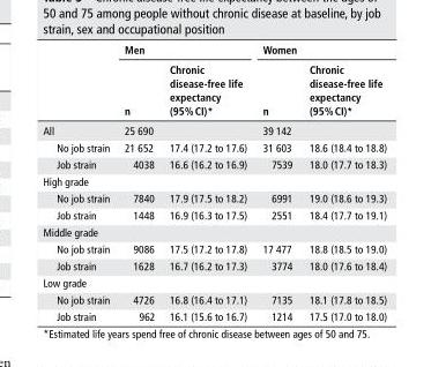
<table><thead><tr><td rowspan="2"></td><td colspan="2">Men</td><td colspan="2">Women</td></tr><tr><td>n</td><td>Chronic disease-free life expectancy (95% CI)*</td><td>n</td><td>Chronic disease-free life expectancy (95% CI)*</td></tr></thead><tbody><tr><td>All</td><td>25 690</td><td></td><td>39 142</td><td></td></tr><tr><td>No job strain</td><td>21 652</td><td>17.4 (17.2 to 17.6)</td><td>31 603</td><td>18.6 (18.4 to 18.8)</td></tr><tr><td>Job strain</td><td>4038</td><td>16.6 (16.2 to 16.9)</td><td>7539</td><td>18.0 (17.7 to 18.3)</td></tr><tr><td colspan="5">High grade</td></tr><tr><td>No job strain</td><td>7840</td><td>17.9 (17.5 to 18.2)</td><td>6991</td><td>19.0 (18.6 to 19.3)</td></tr><tr><td>Job strain</td><td>1448</td><td>16.9 (16.3 to 17.5)</td><td>2551</td><td>18.4 (17.7 to 19.1)</td></tr><tr><td colspan="5">Middle grade</td></tr><tr><td>No job strain</td><td>9086</td><td>17.5 (17.2 to 17.8)</td><td>17 477</td><td>18.8 (18.5 to 19.0)</td></tr><tr><td>Job strain</td><td>1628</td><td>16.7 (16.2 to 17.3)</td><td>3774</td><td>18.0 (17.6 to 18.4)</td></tr><tr><td colspan="5">Low grade</td></tr><tr><td>No job strain</td><td>4726</td><td>16.8 (16.4 to 17.1)</td><td>7135</td><td>18.1 (17.8 to 18.5)</td></tr><tr><td>Job strain</td><td>962</td><td>16.1 (15.6 to 16.7)</td><td>1214</td><td>17.5 (17.0 to 18.0)</td></tr></tbody></table>